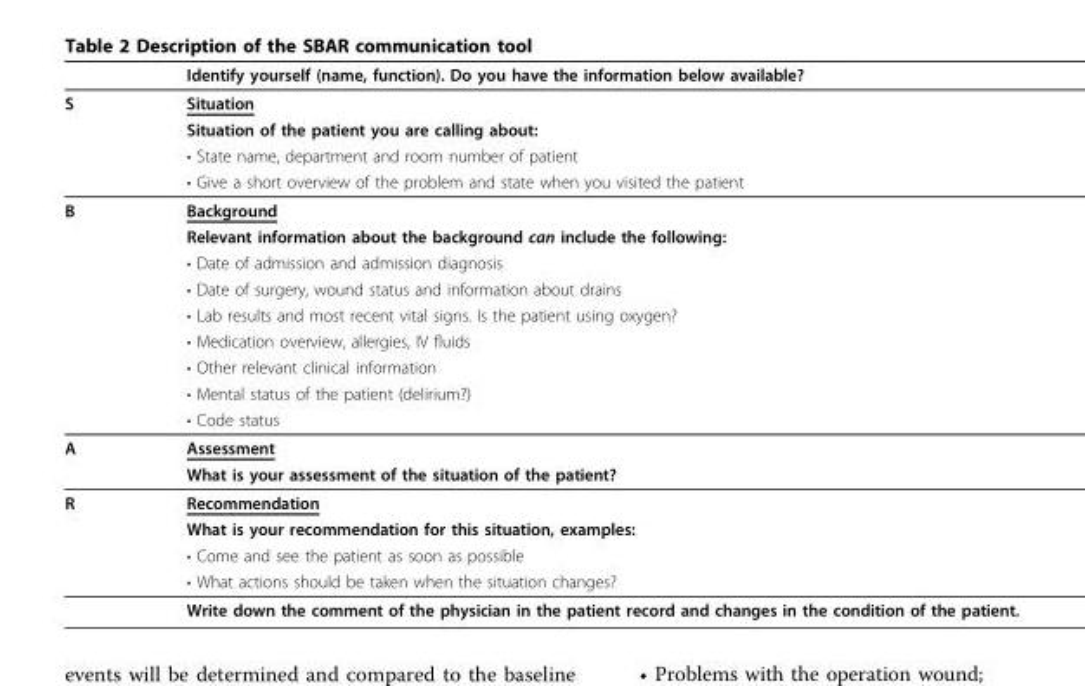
<table><thead><tr><td></td><td>Identify yourself (name, function). Do you have the information below available?</td></tr></thead><tbody><tr><td rowspan="4">S</td><td>Situation</td></tr><tr><td>Situation of the patient you are calling about:</td></tr><tr><td>• State name, department and room number of patient</td></tr><tr><td>• Give a short overview of the problem and state when you visited the patient</td></tr><tr><td rowspan="9">B</td><td>Background</td></tr><tr><td>Relevant information about the background can include the following:</td></tr><tr><td>• Date of admission and admission diagnosis</td></tr><tr><td>• Date of surgery, wound status and information about drains</td></tr><tr><td>• Lab results and most recent vital signs. Is the patient using oxygen?</td></tr><tr><td>• Medication overview, allergies, IV fluids</td></tr><tr><td>• Other relevant clinical information</td></tr><tr><td>• Mental status of the patient (delirium?)</td></tr><tr><td>• Code status</td></tr><tr><td rowspan="2">A</td><td>Assessment</td></tr><tr><td>What is your assessment of the situation of the patient?</td></tr><tr><td rowspan="5">R</td><td>Recommendation</td></tr><tr><td>What is your recommendation for this situation, examples:</td></tr><tr><td>• Come and see the patient as soon as possible</td></tr><tr><td>• What actions should be taken when the situation changes?</td></tr><tr><td>Write down the comment of the physician in the patient record and changes in the condition of the patient.</td></tr></tbody></table>